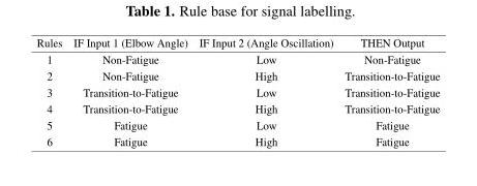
<table><thead><tr><td>Rules</td><td>IF Input 1 (Elbow Angle)</td><td>IF Input 2 (Angle Oscillation)</td><td>THEN Output</td></tr></thead><tbody><tr><td>1</td><td>Non-Fatigue</td><td>Low</td><td>Non-Fatigue</td></tr><tr><td>2</td><td>Non-Fatigue</td><td>High</td><td>Transition-to-Fatigue</td></tr><tr><td>3</td><td>Transition-to-Fatigue</td><td>Low</td><td>Transition-to-Fatigue</td></tr><tr><td>4</td><td>Transition-to-Fatigue</td><td>High</td><td>Transition-to-Fatigue</td></tr><tr><td>5</td><td>Fatigue</td><td>Low</td><td>Fatigue</td></tr><tr><td>6</td><td>Fatigue</td><td>High</td><td>Fatigue</td></tr></tbody></table>